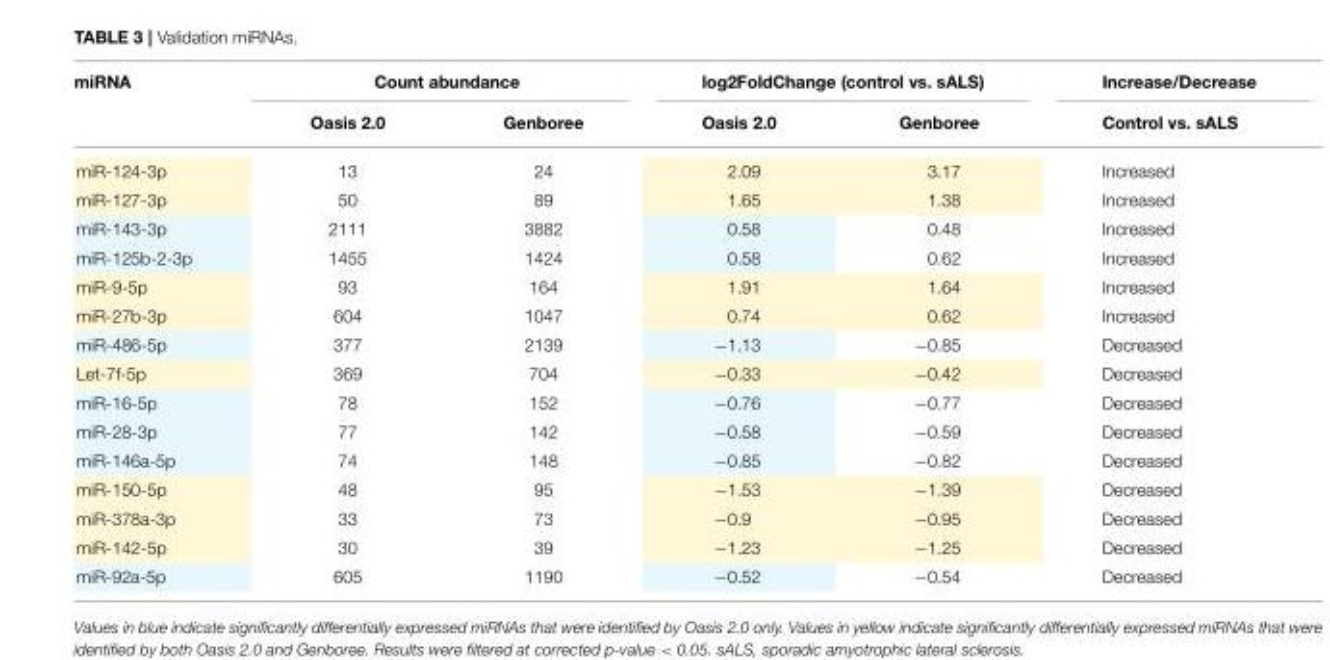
<table><thead><tr><td rowspan="2">miRNA</td><td colspan="2">Count abundance</td><td colspan="2">log2FoldChange (control vs. sALS)</td><td rowspan="2">Increase/Decrease Control vs. sALS</td></tr><tr><td>Oasis 2.0</td><td>Genboree</td><td>Oasis 2.0</td><td>Genboree</td></tr></thead><tbody><tr><td>miR-124-3p</td><td>13</td><td>24</td><td>2.09</td><td>3.17</td><td>Increased</td></tr><tr><td>miR-127-3p</td><td>50</td><td>89</td><td>1.65</td><td>1.38</td><td>Increased</td></tr><tr><td>miR-143-3p</td><td>2111</td><td>3882</td><td>0.58</td><td>0.48</td><td>Increased</td></tr><tr><td>miR-125b-2-3p</td><td>1455</td><td>1424</td><td>0.58</td><td>0.62</td><td>Increased</td></tr><tr><td>miR-9-5p</td><td>93</td><td>164</td><td>1.91</td><td>1.64</td><td>Increased</td></tr><tr><td>miR-27b-3p</td><td>604</td><td>1047</td><td>0.74</td><td>0.62</td><td>Increased</td></tr><tr><td>miR-486-5p</td><td>377</td><td>2139</td><td>−1.13</td><td>−0.85</td><td>Decreased</td></tr><tr><td>Let-7f-5p</td><td>369</td><td>704</td><td>−0.33</td><td>−0.42</td><td>Decreased</td></tr><tr><td>miR-16-5p</td><td>78</td><td>152</td><td>−0.76</td><td>−0.77</td><td>Decreased</td></tr><tr><td>miR-28-3p</td><td>77</td><td>142</td><td>−0.58</td><td>−0.59</td><td>Decreased</td></tr><tr><td>miR-146a-5p</td><td>74</td><td>148</td><td>−0.85</td><td>−0.82</td><td>Decreased</td></tr><tr><td>miR-150-5p</td><td>48</td><td>95</td><td>−1.53</td><td>−1.39</td><td>Decreased</td></tr><tr><td>miR-378a-3p</td><td>33</td><td>73</td><td>−0.9</td><td>−0.95</td><td>Decreased</td></tr><tr><td>miR-142-5p</td><td>30</td><td>39</td><td>−1.23</td><td>−1.25</td><td>Decreased</td></tr><tr><td>miR-92a-5p</td><td>605</td><td>1190</td><td>−0.52</td><td>−0.54</td><td>Decreased</td></tr></tbody></table>